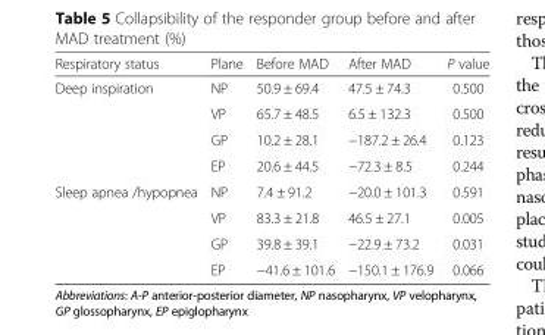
<table><thead><tr><td>Respiratory status</td><td>Plane</td><td>Before MAD</td><td>After MAD</td><td>P value</td></tr></thead><tbody><tr><td rowspan="4">Deep inspiration</td><td>NP</td><td>50.9 ± 69.4</td><td>47.5 ± 74.3</td><td>0.500</td></tr><tr><td>VP</td><td>65.7 ± 48.5</td><td>6.5 ± 132.3</td><td>0.500</td></tr><tr><td>GP</td><td>10.2 ± 28.1</td><td>−187.2 ± 26.4</td><td>0.123</td></tr><tr><td>EP</td><td>20.6 ± 44.5</td><td>−72.3 ± 8.5</td><td>0.244</td></tr><tr><td rowspan="4">Sleep apnea /hypopnea</td><td>NP</td><td>7.4 ± 91.2</td><td>−20.0 ± 101.3</td><td>0.591</td></tr><tr><td>VP</td><td>83.3 ± 21.8</td><td>46.5 ± 27.1</td><td>0.005</td></tr><tr><td>GP</td><td>39.8 ± 39.1</td><td>−22.9 ± 73.2</td><td>0.031</td></tr><tr><td>EP</td><td>−41.6 ± 101.6</td><td>−150.1 ± 176.9</td><td>0.066</td></tr></tbody></table>